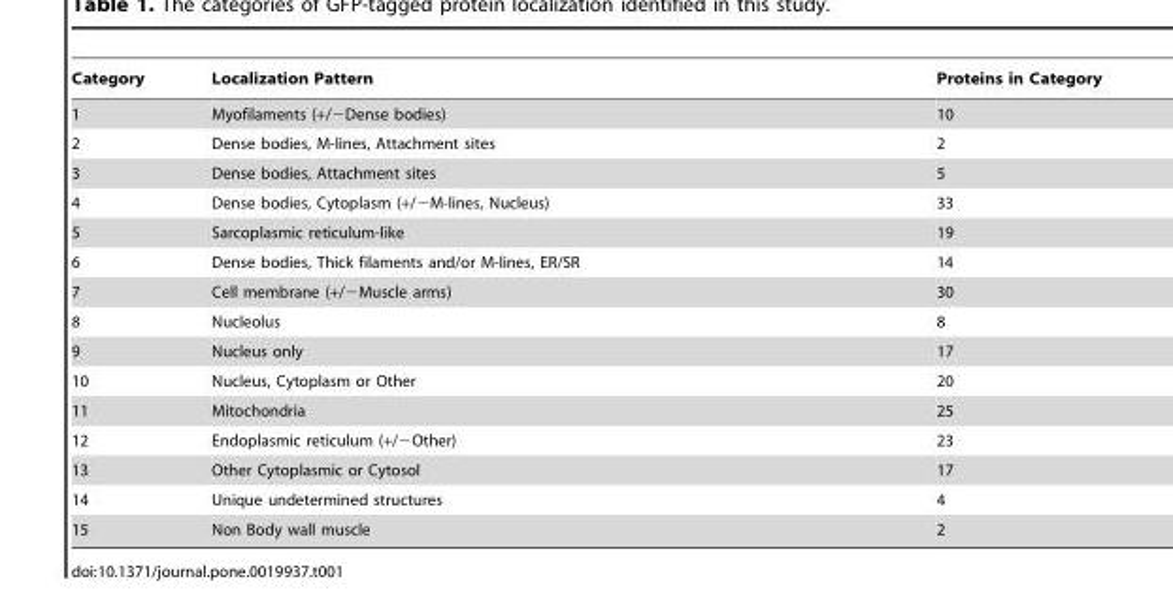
<table><thead><tr><td>Category</td><td>Localization Pattern</td><td>Proteins in Category</td></tr></thead><tbody><tr><td>1</td><td>Myofilaments (+/−Dense bodies)</td><td>10</td></tr><tr><td>2</td><td>Dense bodies, M-lines, Attachment sites</td><td>2</td></tr><tr><td>3</td><td>Dense bodies, Attachment sites</td><td>5</td></tr><tr><td>4</td><td>Dense bodies, Cytoplasm (+/−M-lines, Nucleus)</td><td>33</td></tr><tr><td>5</td><td>Sarcoplasmic reticulum-like</td><td>19</td></tr><tr><td>6</td><td>Dense bodies, Thick filaments and/or M-lines, ER/SR</td><td>14</td></tr><tr><td>7</td><td>Cell membrane (+/−Muscle arms)</td><td>30</td></tr><tr><td>8</td><td>Nucleolus</td><td>8</td></tr><tr><td>9</td><td>Nucleus only</td><td>17</td></tr><tr><td>10</td><td>Nucleus, Cytoplasm or Other</td><td>20</td></tr><tr><td>11</td><td>Mitochondria</td><td>25</td></tr><tr><td>12</td><td>Endoplasmic reticulum (+/−Other)</td><td>23</td></tr><tr><td>13</td><td>Other Cytoplasmic or Cytosol</td><td>17</td></tr><tr><td>14</td><td>Unique undetermined structures</td><td>4</td></tr><tr><td>15</td><td>Non Body wall muscle</td><td>2</td></tr></tbody></table>